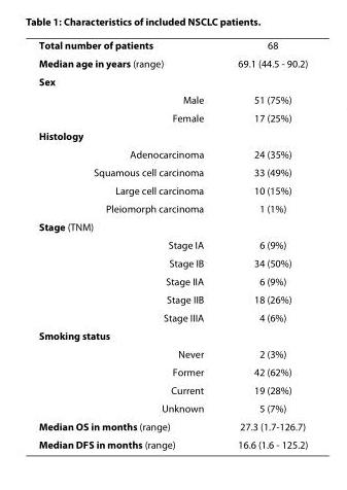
<table><tbody><tr><td>Total number of patients</td><td>68</td></tr><tr><td>Median age in years (range)</td><td>69.1 (44.5 - 90.2)</td></tr><tr><td colspan="2">Sex</td></tr><tr><td>Male</td><td>51 (75%)</td></tr><tr><td>Female</td><td>17 (25%)</td></tr><tr><td colspan="2">Histology</td></tr><tr><td>Adenocarcinoma</td><td>24 (35%)</td></tr><tr><td>Squamous cell carcinoma</td><td>33 (49%)</td></tr><tr><td>Large cell carcinoma</td><td>10 (15%)</td></tr><tr><td>Pleiomorph carcinoma</td><td>1 (1%)</td></tr><tr><td colspan="2">Stage (TNM)</td></tr><tr><td>Stage IA</td><td>6 (9%)</td></tr><tr><td>Stage IB</td><td>34 (50%)</td></tr><tr><td>Stage IIA</td><td>6 (9%)</td></tr><tr><td>Stage IIB</td><td>18 (26%)</td></tr><tr><td>Stage IIIA</td><td>4 (6%)</td></tr><tr><td colspan="2">Smoking status</td></tr><tr><td>Never</td><td>2 (3%)</td></tr><tr><td>Former</td><td>42 (62%)</td></tr><tr><td>Current</td><td>19 (28%)</td></tr><tr><td>Unknown</td><td>5 (7%)</td></tr><tr><td>Median OS in months (range)</td><td>27.3 (1.7-126.7)</td></tr><tr><td>Median DFS in months (range)</td><td>16.6 (1.6 - 125.2)</td></tr></tbody></table>